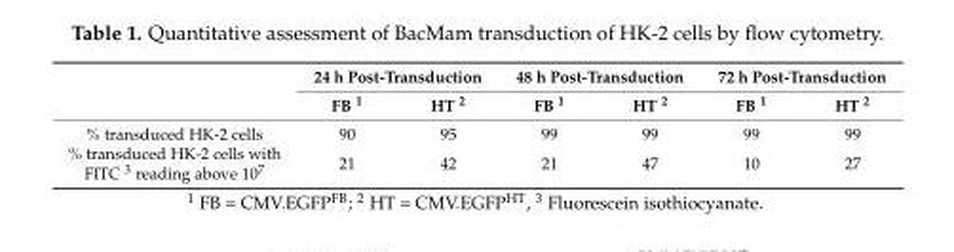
<table><thead><tr><td rowspan="2"></td><td colspan="2">24 h Post-Transduction</td><td colspan="2">48 h Post-Transduction</td><td colspan="2">72 h Post-Transduction</td></tr><tr><td>FB <sup>1</sup></td><td>HT <sup>2</sup></td><td>FB <sup>1</sup></td><td>HT <sup>2</sup></td><td>FB <sup>1</sup></td><td>HT <sup>2</sup></td></tr></thead><tbody><tr><td>% transduced HK-2 cells</td><td>90</td><td>95</td><td>99</td><td>99</td><td>99</td><td>99</td></tr><tr><td>% transduced HK-2 cells with FITC <sup>3</sup> reading above 10<sup>7</sup></td><td>21</td><td>42</td><td>21</td><td>47</td><td>10</td><td>27</td></tr></tbody></table>